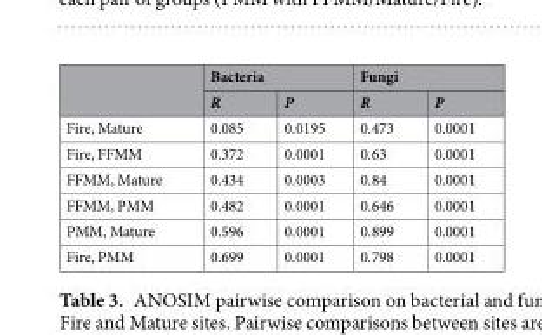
<table><thead><tr><td rowspan="2"></td><td colspan="2">Bacteria</td><td colspan="2">Fungi</td></tr><tr><td>R</td><td>P</td><td>R</td><td>P</td></tr></thead><tbody><tr><td>Fire, Mature</td><td>0.085</td><td>0.0195</td><td>0.473</td><td>0.0001</td></tr><tr><td>Fire, FFMM</td><td>0.372</td><td>0.0001</td><td>0.63</td><td>0.0001</td></tr><tr><td>FFMM, Mature</td><td>0.434</td><td>0.0003</td><td>0.84</td><td>0.0001</td></tr><tr><td>FFMM, PMM</td><td>0.482</td><td>0.0001</td><td>0.646</td><td>0.0001</td></tr><tr><td>PMM, Mature</td><td>0.596</td><td>0.0001</td><td>0.899</td><td>0.0001</td></tr><tr><td>Fire, PMM</td><td>0.699</td><td>0.0001</td><td>0.798</td><td>0.0001</td></tr></tbody></table>